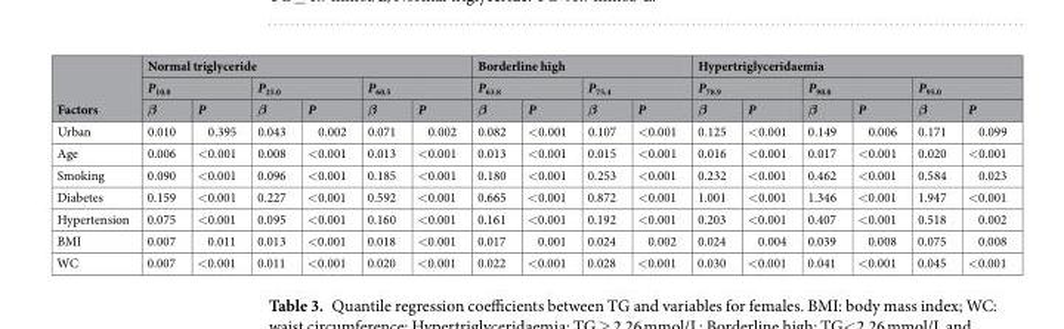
<table><thead><tr><td rowspan="3">Factors</td><td colspan="6">Normal triglyceride</td><td colspan="4">Borderline high</td><td colspan="6">Hypertriglyceridaemia</td></tr><tr><td colspan="2">P<sub>10.0</sub></td><td colspan="2">P<sub>25.0</sub></td><td colspan="2">P<sub>60.5</sub></td><td colspan="2">P<sub>63.8</sub></td><td colspan="2">P<sub>75.4</sub></td><td colspan="2">P<sub>78.9</sub></td><td colspan="2">P<sub>90.0</sub></td><td colspan="2">P<sub>95.0</sub></td></tr><tr><td>β</td><td>P</td><td>β</td><td>P</td><td>β</td><td>P</td><td>β</td><td>P</td><td>β</td><td>P</td><td>β</td><td>P</td><td>β</td><td>P</td><td>β</td><td>P</td></tr></thead><tbody><tr><td>Urban</td><td>0.010</td><td>0.395</td><td>0.043</td><td>0.002</td><td>0.071</td><td>0.002</td><td>0.082</td><td>&lt;0.001</td><td>0.107</td><td>&lt;0.001</td><td>0.125</td><td>&lt;0.001</td><td>0.149</td><td>0.006</td><td>0.171</td><td>0.099</td></tr><tr><td>Age</td><td>0.006</td><td>&lt;0.001</td><td>0.008</td><td>&lt;0.001</td><td>0.013</td><td>&lt;0.001</td><td>0.013</td><td>&lt;0.001</td><td>0.015</td><td>&lt;0.001</td><td>0.016</td><td>&lt;0.001</td><td>0.017</td><td>&lt;0.001</td><td>0.020</td><td>&lt;0.001</td></tr><tr><td>Smoking</td><td>0.090</td><td>&lt;0.001</td><td>0.096</td><td>&lt;0.001</td><td>0.185</td><td>&lt;0.001</td><td>0.180</td><td>&lt;0.001</td><td>0.253</td><td>&lt;0.001</td><td>0.232</td><td>&lt;0.001</td><td>0.462</td><td>&lt;0.001</td><td>0.584</td><td>0.023</td></tr><tr><td>Diabetes</td><td>0.159</td><td>&lt;0.001</td><td>0.227</td><td>&lt;0.001</td><td>0.592</td><td>&lt;0.001</td><td>0.665</td><td>&lt;0.001</td><td>0.872</td><td>&lt;0.001</td><td>1.001</td><td>&lt;0.001</td><td>1.346</td><td>&lt;0.001</td><td>1.947</td><td>&lt;0.001</td></tr><tr><td>Hypertension</td><td>0.075</td><td>&lt;0.001</td><td>0.095</td><td>&lt;0.001</td><td>0.160</td><td>&lt;0.001</td><td>0.161</td><td>&lt;0.001</td><td>0.192</td><td>&lt;0.001</td><td>0.203</td><td>&lt;0.001</td><td>0.407</td><td>&lt;0.001</td><td>0.518</td><td>0.002</td></tr><tr><td>BMI</td><td>0.007</td><td>0.011</td><td>0.013</td><td>&lt;0.001</td><td>0.018</td><td>&lt;0.001</td><td>0.017</td><td>0.001</td><td>0.024</td><td>0.002</td><td>0.024</td><td>0.004</td><td>0.039</td><td>0.008</td><td>0.075</td><td>0.008</td></tr><tr><td>WC</td><td>0.007</td><td>&lt;0.001</td><td>0.011</td><td>&lt;0.001</td><td>0.020</td><td>&lt;0.001</td><td>0.022</td><td>&lt;0.001</td><td>0.028</td><td>&lt;0.001</td><td>0.030</td><td>&lt;0.001</td><td>0.041</td><td>&lt;0.001</td><td>0.045</td><td>&lt;0.001</td></tr></tbody></table>